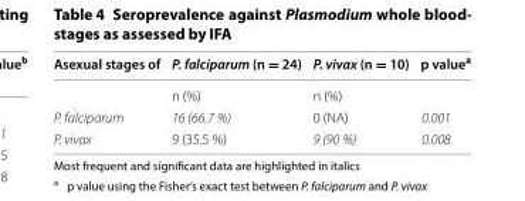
<table><thead><tr><td>Asexual stages of</td><td>P. falciparum (n = 24)</td><td>P. vivax (n = 10)</td><td>p value<sup>a</sup></td></tr></thead><tbody><tr><td></td><td>n (%)</td><td>n (%)</td><td></td></tr><tr><td>P. falciparum</td><td>16 (66.7 %)</td><td>0 (NA)</td><td>0.001</td></tr><tr><td>P. vivax</td><td>9 (35.5 %)</td><td>9 (90 %)</td><td>0.008</td></tr></tbody></table>